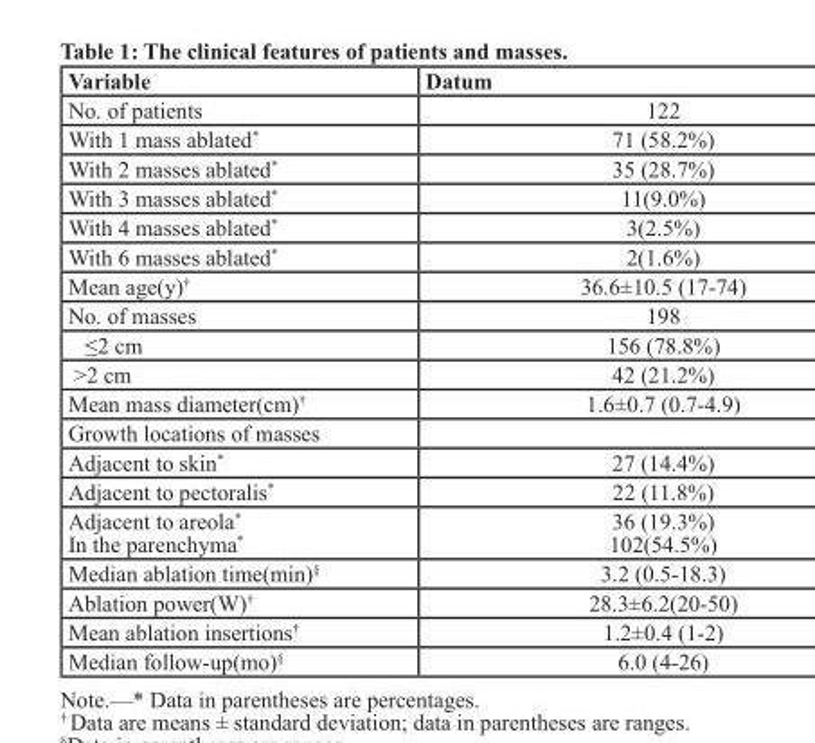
<table><thead><tr><td>Variable</td><td>Datum</td></tr></thead><tbody><tr><td>No. of patients</td><td>122</td></tr><tr><td>With 1 mass ablated*</td><td>71 (58.2%)</td></tr><tr><td>With 2 masses ablated*</td><td>35 (28.7%)</td></tr><tr><td>With 3 masses ablated*</td><td>11(9.0%)</td></tr><tr><td>With 4 masses ablated*</td><td>3(2.5%)</td></tr><tr><td>With 6 masses ablated*</td><td>2(1.6%)</td></tr><tr><td>Mean age(y)<sup>†</sup></td><td>36.6±10.5 (17-74)</td></tr><tr><td>No. of masses</td><td>198</td></tr><tr><td>≤2 cm</td><td>156 (78.8%)</td></tr><tr><td>&gt;2 cm</td><td>42 (21.2%)</td></tr><tr><td>Mean mass diameter(cm)<sup>†</sup></td><td>1.6±0.7 (0.7-4.9)</td></tr><tr><td colspan="2">Growth locations of masses</td></tr><tr><td>Adjacent to skin*</td><td>27 (14.4%)</td></tr><tr><td>Adjacent to pectoralis*</td><td>22 (11.8%)</td></tr><tr><td>Adjacent to areola* In the parenchyma*</td><td>36 (19.3%) 102(54.5%)</td></tr><tr><td>Median ablation time(min)<sup>§</sup></td><td>3.2 (0.5-18.3)</td></tr><tr><td>Ablation power(W)<sup>†</sup></td><td>28.3±6.2(20-50)</td></tr><tr><td>Mean ablation insertions<sup>†</sup></td><td>1.2±0.4 (1-2)</td></tr><tr><td>Median follow-up(mo)<sup>§</sup></td><td>6.0 (4-26)</td></tr></tbody></table>